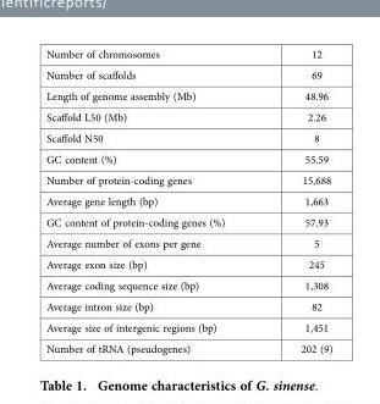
<table><tbody><tr><td>Number of chromosomes</td><td>12</td></tr><tr><td>Number of scaffolds</td><td>69</td></tr><tr><td>Length of genome assembly (Mb)</td><td>48.96</td></tr><tr><td>Scaffold L50 (Mb)</td><td>2.26</td></tr><tr><td>Scaffold N50</td><td>8</td></tr><tr><td>GC content (%)</td><td>55.59</td></tr><tr><td>Number of protein-coding genes</td><td>15,688</td></tr><tr><td>Average gene length (bp)</td><td>1,663</td></tr><tr><td>GC content of protein-coding genes (%)</td><td>57.93</td></tr><tr><td>Average number of exons per gene</td><td>5</td></tr><tr><td>Average exon size (bp)</td><td>245</td></tr><tr><td>Average coding sequence size (bp)</td><td>1,308</td></tr><tr><td>Average intron size (bp)</td><td>82</td></tr><tr><td>Average size of intergenic regions (bp)</td><td>1,451</td></tr><tr><td>Number of tRNA (pseudogenes)</td><td>202 (9)</td></tr></tbody></table>